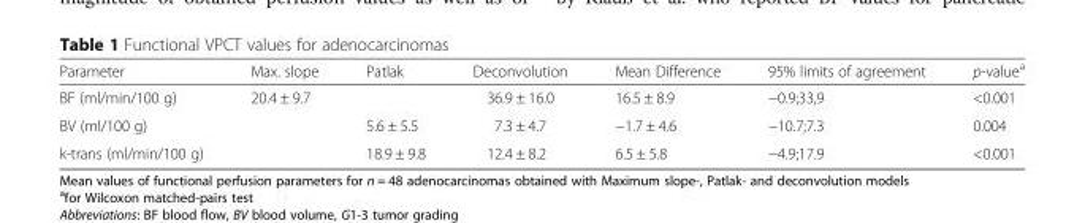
<table><thead><tr><td>Parameter</td><td>Max. slope</td><td>Patlak</td><td>Deconvolution</td><td>Mean Difference</td><td>95% limits of agreement</td><td>p-value<sup>a</sup></td></tr></thead><tbody><tr><td>BF (ml/min/100 g)</td><td>20.4 ± 9.7</td><td></td><td>36.9 ± 16.0</td><td>16.5 ± 8.9</td><td>−0.9;33,9</td><td>&lt;0.001</td></tr><tr><td>BV (ml/100 g)</td><td></td><td>5.6 ± 5.5</td><td>7.3 ± 4.7</td><td>−1.7 ± 4.6</td><td>−10.7;7.3</td><td>0.004</td></tr><tr><td>k-trans (ml/min/100 g)</td><td></td><td>18.9 ± 9.8</td><td>12.4 ± 8.2</td><td>6.5 ± 5.8</td><td>−4.9;17.9</td><td>&lt;0.001</td></tr></tbody></table>